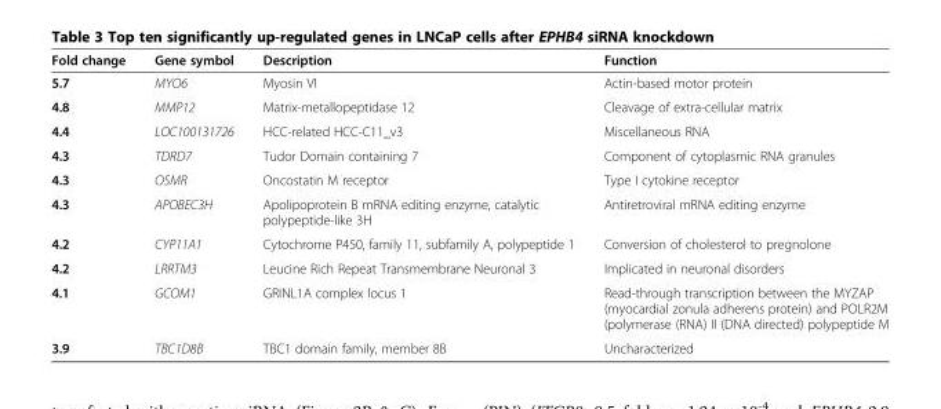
<table><thead><tr><td>Fold change</td><td>Gene symbol</td><td>Description</td><td>Function</td></tr></thead><tbody><tr><td>5.7</td><td>MYO6</td><td>Myosin VI</td><td>Actin-based motor protein</td></tr><tr><td>4.8</td><td>MMP12</td><td>Matrix-metallopeptidase 12</td><td>Cleavage of extra-cellular matrix</td></tr><tr><td>4.4</td><td>LOC100131726</td><td>HCC-related HCC-C11_v3</td><td>Miscellaneous RNA</td></tr><tr><td>4.3</td><td>TDRD7</td><td>Tudor Domain containing 7</td><td>Component of cytoplasmic RNA granules</td></tr><tr><td>4.3</td><td>OSMR</td><td>Oncostatin M receptor</td><td>Type I cytokine receptor</td></tr><tr><td>4.3</td><td>APOBEC3H</td><td>Apolipoprotein B mRNA editing enzyme, catalytic polypeptide-like 3H</td><td>Antiretroviral mRNA editing enzyme</td></tr><tr><td>4.2</td><td>CYP11A1</td><td>Cytochrome P450, family 11, subfamily A, polypeptide 1</td><td>Conversion of cholesterol to pregnolone</td></tr><tr><td>4.2</td><td>LRRTM3</td><td>Leucine Rich Repeat Transmembrane Neuronal 3</td><td>Implicated in neuronal disorders</td></tr><tr><td>4.1</td><td>GCOM1</td><td>GRINL1A complex locus 1</td><td>Read-through transcription between the MYZAP (myocardial zonula adherens protein) and POLR2M (polymerase (RNA) II (DNA directed) polypeptide M</td></tr><tr><td>3.9</td><td>TBC1D8B</td><td>TBC1 domain family, member 8B</td><td>Uncharacterized</td></tr></tbody></table>